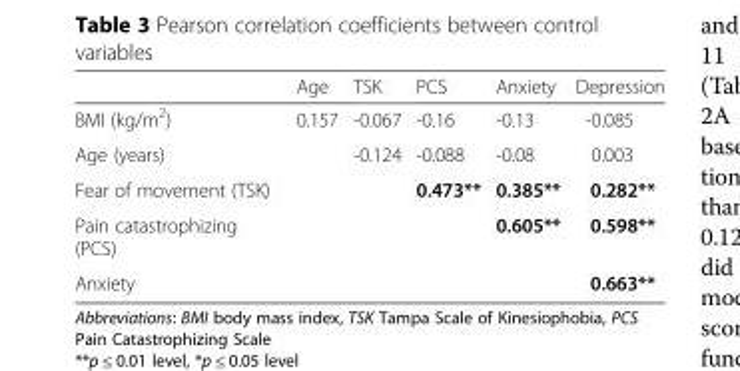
<table><thead><tr><td></td><td>Age</td><td>TSK</td><td>PCS</td><td>Anxiety</td><td>Depression</td></tr></thead><tbody><tr><td>BMI (kg/m<sup>2</sup>)</td><td>0.157</td><td>-0.067</td><td>-0.16</td><td>-0.13</td><td>-0.085</td></tr><tr><td>Age (years)</td><td></td><td>-0.124</td><td>-0.088</td><td>-0.08</td><td>0.003</td></tr><tr><td>Fear of movement (TSK)</td><td></td><td></td><td>0.473**</td><td>0.385**</td><td>0.282**</td></tr><tr><td>Pain catastrophizing (PCS)</td><td></td><td></td><td></td><td>0.605**</td><td>0.598**</td></tr><tr><td>Anxiety</td><td></td><td></td><td></td><td></td><td>0.663**</td></tr></tbody></table>